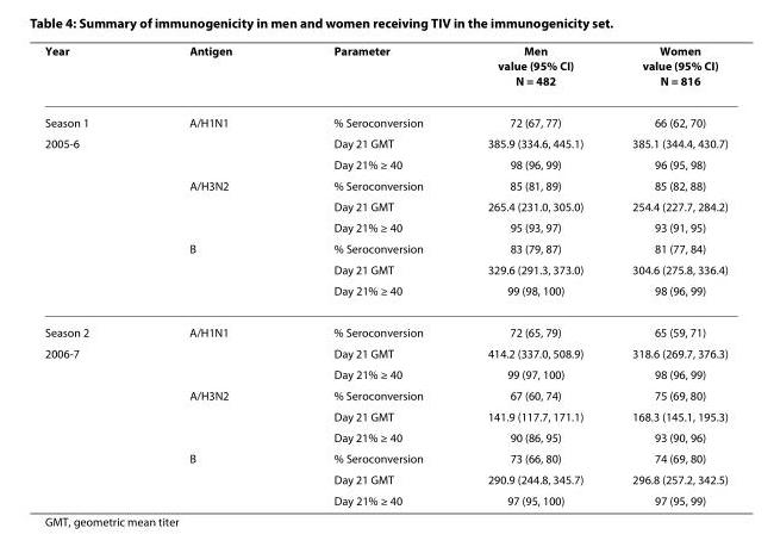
<table><thead><tr><td>Year</td><td>Antigen</td><td>Parameter</td><td>Men value (95% CI) N = 482</td><td>Women value (95% CI) N = 816</td></tr></thead><tbody><tr><td>Season 1</td><td>A/H1N1</td><td>% Seroconversion</td><td>72 (67, 77)</td><td>66 (62, 70)</td></tr><tr><td rowspan="8">2005-6</td><td></td><td>Day 21 GMT</td><td>385.9 (334.6, 445.1)</td><td>385.1 (344.4, 430.7)</td></tr><tr><td></td><td>Day 21% ≥ 40</td><td>98 (96, 99)</td><td>96 (95, 98)</td></tr><tr><td>A/H3N2</td><td>% Seroconversion</td><td>85 (81, 89)</td><td>85 (82, 88)</td></tr><tr><td></td><td>Day 21 GMT</td><td>265.4 (231.0, 305.0)</td><td>254.4 (227.7, 284.2)</td></tr><tr><td></td><td>Day 21% ≥ 40</td><td>95 (93, 97)</td><td>93 (91, 95)</td></tr><tr><td>B</td><td>% Seroconversion</td><td>83 (79, 87)</td><td>81 (77, 84)</td></tr><tr><td></td><td>Day 21 GMT</td><td>329.6 (291.3, 373.0)</td><td>304.6 (275.8, 336.4)</td></tr><tr><td></td><td>Day 21% ≥ 40</td><td>99 (98, 100)</td><td>98 (96, 99)</td></tr><tr><td>Season 2</td><td>A/H1N1</td><td>% Seroconversion</td><td>72 (65, 79)</td><td>65 (59, 71)</td></tr><tr><td rowspan="8">2006-7</td><td></td><td>Day 21 GMT</td><td>414.2 (337.0, 508.9)</td><td>318.6 (269.7, 376.3)</td></tr><tr><td></td><td>Day 21% ≥ 40</td><td>99 (97, 100)</td><td>98 (96, 99)</td></tr><tr><td>A/H3N2</td><td>% Seroconversion</td><td>67 (60, 74)</td><td>75 (69, 80)</td></tr><tr><td></td><td>Day 21 GMT</td><td>141.9 (117.7, 171.1)</td><td>168.3 (145.1, 195.3)</td></tr><tr><td></td><td>Day 21% ≥ 40</td><td>90 (86, 95)</td><td>93 (90, 96)</td></tr><tr><td>B</td><td>% Seroconversion</td><td>73 (66, 80)</td><td>74 (69, 80)</td></tr><tr><td></td><td>Day 21 GMT</td><td>290.9 (244.8, 345.7)</td><td>296.8 (257.2, 342.5)</td></tr><tr><td></td><td>Day 21% ≥ 40</td><td>97 (95, 100)</td><td>97 (95, 99)</td></tr></tbody></table>